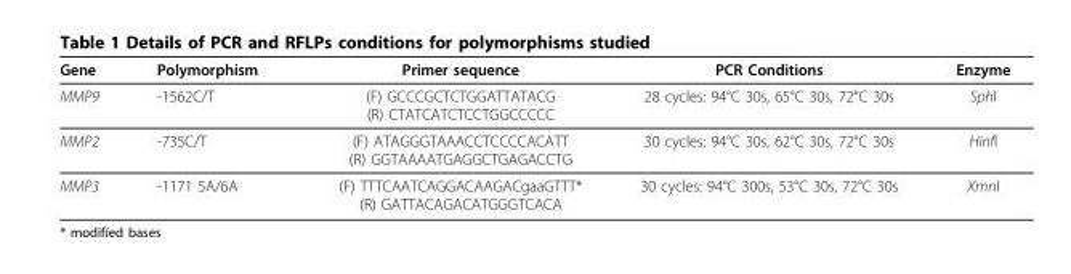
<table><thead><tr><td>Gene</td><td>Polymorphism</td><td>Primer sequence</td><td>PCR Conditions</td><td>Enzyme</td></tr></thead><tbody><tr><td>MMP9</td><td>-1562C/T</td><td>(F) GCCCGCTCTGGATTATACG (R) CTATCATCTCCTGGCCCCC</td><td>28 cycles: 94°C 30s, 65°C 30s, 72°C 30s</td><td>SphI</td></tr><tr><td>MMP2</td><td>-735C/T</td><td>(F) ATAGGGTAAACCTCCCCACATT (R) GGTAAAATGAGGCTGAGACCTG</td><td>30 cycles: 94°C 30s, 62°C 30s, 72°C 30s</td><td>HinfI</td></tr><tr><td>MMP3</td><td>-1171 5A/6A</td><td>(F) TTTCAATCAGGACAAGACgaaGTTT* (R) GATTACAGACATGGGTCACA</td><td>30 cycles: 94°C 300s, 53°C 30s, 72°C 30s</td><td>XmnI</td></tr></tbody></table>